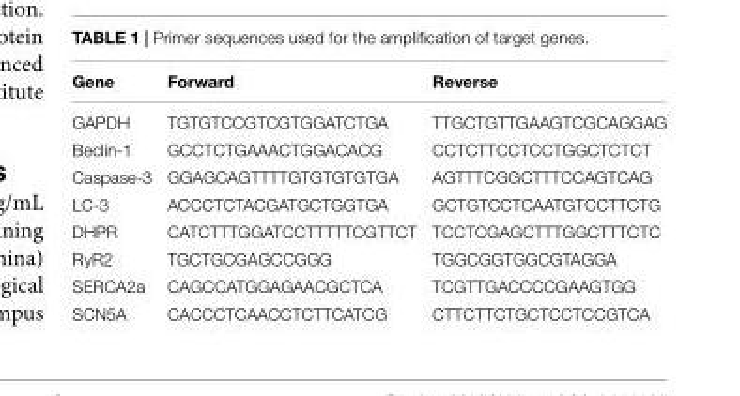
<table><thead><tr><td>Gene</td><td>Forward</td><td>Reverse</td></tr></thead><tbody><tr><td>GAPDH</td><td>TGTGTCCGTCGTGGATCTGA</td><td>TTGCTGTTGAAGTCGCAGGAG</td></tr><tr><td>Beclin-1</td><td>GCCTCTGAAACTGGACACG</td><td>CCTCTTCCTCCTGGCTCTCT</td></tr><tr><td>Caspase-3</td><td>GGAGCAGTTTTGTGTGTGTGA</td><td>AGTTTCGGCTTTCCAGTCAG</td></tr><tr><td>LC-3</td><td>ACCCTCTACGATGCTGGTGA</td><td>GCTGTCCTCAATGTCCTTCTG</td></tr><tr><td>DHPR</td><td>CATCTTTGGATCCTTTTTCGTTCT</td><td>TCCTCGAGCTTTGGCTTTCTC</td></tr><tr><td>RyR2</td><td>TGCTGCGAGCCGGG</td><td>TGGCGGTGGCGTAGGA</td></tr><tr><td>SERCA2a</td><td>CAGCCATGGAGAACGCTCA</td><td>TCGTTGACCCCGAAGTGG</td></tr><tr><td>SCN5A</td><td>CACCCTCAACCTCTTCATCG</td><td>CTTCTTCTGCTCCTCCGTCA</td></tr></tbody></table>